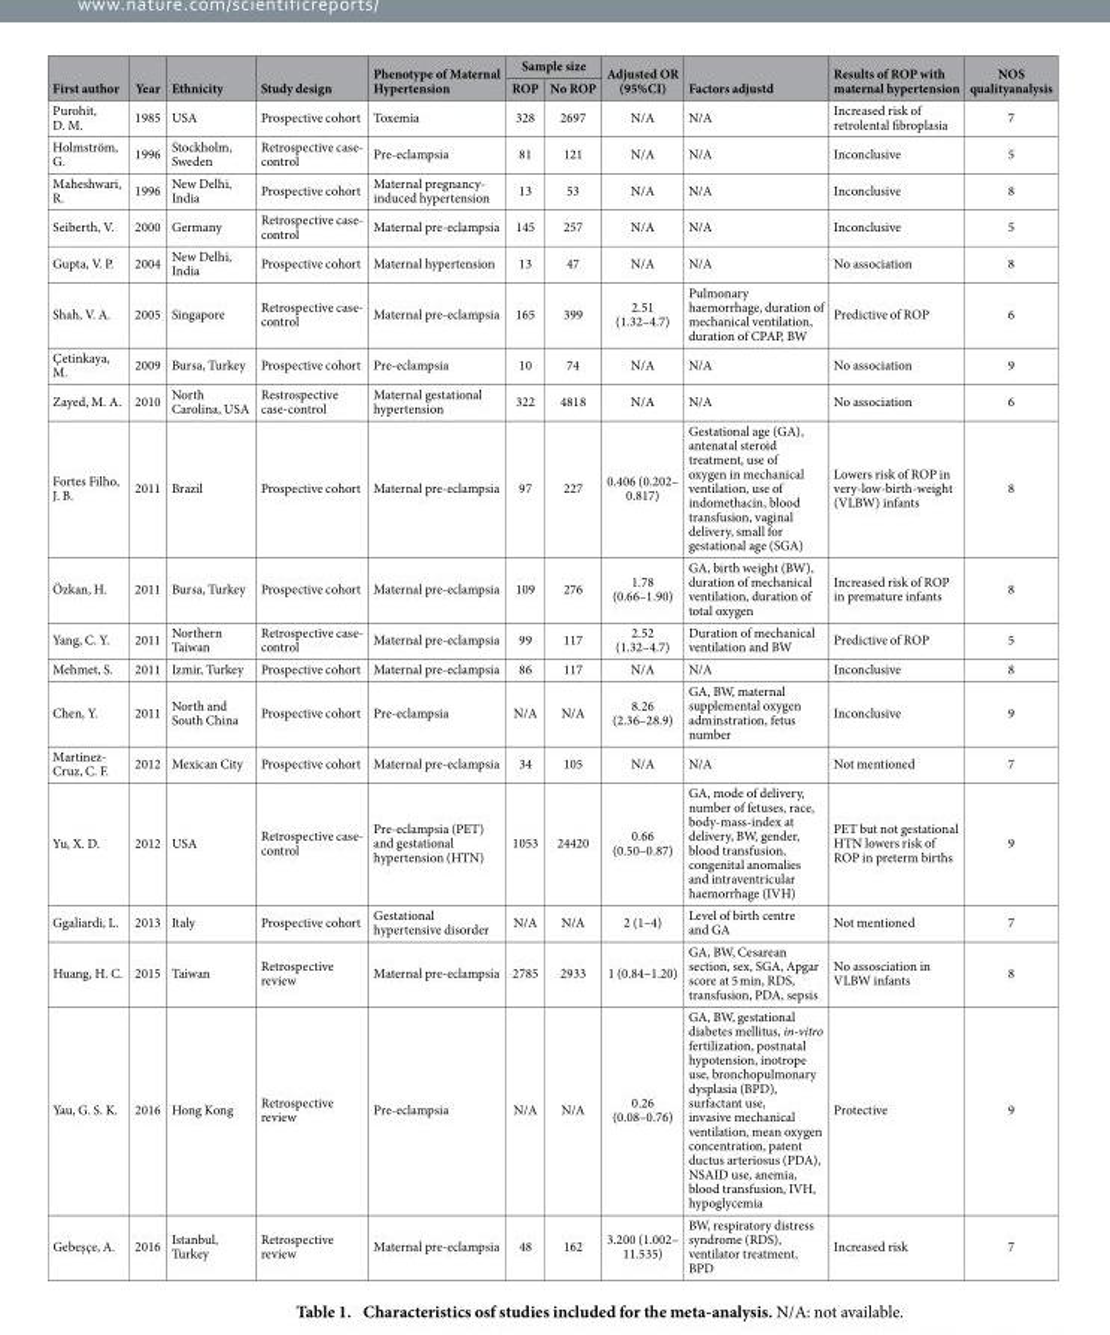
<table><thead><tr><td rowspan="2">First author</td><td rowspan="2">Year</td><td rowspan="2">Ethnicity</td><td rowspan="2">Study design</td><td rowspan="2">Phenotype of Maternal Hypertension</td><td colspan="2">Sample size</td><td rowspan="2">Adjusted OR (95%CI)</td><td rowspan="2">Factors adjustd</td><td rowspan="2">Results of ROP with maternal hypertension</td><td rowspan="2">NOS qualityanalysis</td></tr><tr><td>ROP</td><td>No ROP</td></tr></thead><tbody><tr><td>Purohit, D. M.</td><td>1985</td><td>USA</td><td>Prospective cohort</td><td>Toxemia</td><td>328</td><td>2697</td><td>N/A</td><td>N/A</td><td>Increased risk of retrolental fibroplasia</td><td>7</td></tr><tr><td>Holmström, G.</td><td>1996</td><td>Stockholm, Sweden</td><td>Retrospective case- control</td><td>Pre-eclampsia</td><td>81</td><td>121</td><td>N/A</td><td>N/A</td><td>Inconclusive</td><td>5</td></tr><tr><td>Maheshwari, R.</td><td>1996</td><td>New Delhi, India</td><td>Prospective cohort</td><td>Maternal pregnancy- induced hypertension</td><td>13</td><td>53</td><td>N/A</td><td>N/A</td><td>Inconclusive</td><td>8</td></tr><tr><td>Seiberth, V.</td><td>2000</td><td>Germany</td><td>Retrospective case- control</td><td>Maternal pre-eclampsia</td><td>145</td><td>257</td><td>N/A</td><td>N/A</td><td>Inconclusive</td><td>5</td></tr><tr><td>Gupta, V. P.</td><td>2004</td><td>New Delhi, India</td><td>Prospective cohort</td><td>Maternal hypertension</td><td>13</td><td>47</td><td>N/A</td><td>N/A</td><td>No association</td><td>8</td></tr><tr><td>Shah, V. A.</td><td>2005</td><td>Singapore</td><td>Retrospective case- control</td><td>Maternal pre-eclampsia</td><td>165</td><td>399</td><td>2.51 (1.32–4.7)</td><td>Pulmonary haemorrhage, duration of mechanical ventilation, duration of CPAP, BW</td><td>Predictive of ROP</td><td>6</td></tr><tr><td>Çetinkaya, M.</td><td>2009</td><td>Bursa, Turkey</td><td>Prospective cohort</td><td>Pre-eclampsia</td><td>10</td><td>74</td><td>N/A</td><td>N/A</td><td>No association</td><td>9</td></tr><tr><td>Zayed, M. A.</td><td>2010</td><td>North Carolina, USA</td><td>Restrospective case-control</td><td>Maternal gestational hypertension</td><td>322</td><td>4818</td><td>N/A</td><td>N/A</td><td>No association</td><td>6</td></tr><tr><td>Fortes Filho, J. B.</td><td>2011</td><td>Brazil</td><td>Prospective cohort</td><td>Maternal pre-eclampsia</td><td>97</td><td>227</td><td>0.406 (0.202– 0.817)</td><td>Gestational age (GA), antenatal steroid treatment, use of oxygen in mechanical ventilation, use of indomethacin, blood transfusion, vaginal delivery, small for gestational age (SGA)</td><td>Lowers risk of ROP in very-low-birth-weight (VLBW) infants</td><td>8</td></tr><tr><td>Özkan, H.</td><td>2011</td><td>Bursa, Turkey</td><td>Prospective cohort</td><td>Maternal pre-eclampsia</td><td>109</td><td>276</td><td>1.78 (0.66–1.90)</td><td>GA, birth weight (BW), duration of mechanical ventilation, duration of total oxygen</td><td>Increased risk of ROP in premature infants</td><td>8</td></tr><tr><td>Yang, C. Y.</td><td>2011</td><td>Northern Taiwan</td><td>Retrospective case- control</td><td>Maternal pre-eclampsia</td><td>99</td><td>117</td><td>2.52 (1.32–4.7)</td><td>Duration of mechanical ventilation and BW</td><td>Predictive of ROP</td><td>5</td></tr><tr><td>Mehmet, S.</td><td>2011</td><td>Izmir, Turkey</td><td>Prospective cohort</td><td>Maternal pre-eclampsia</td><td>86</td><td>117</td><td>N/A</td><td>N/A</td><td>Inconclusive</td><td>8</td></tr><tr><td>Chen, Y.</td><td>2011</td><td>North and South China</td><td>Prospective cohort</td><td>Pre-eclampsia</td><td>N/A</td><td>N/A</td><td>8.26 (2.36–28.9)</td><td>GA, BW, maternal supplemental oxygen adminstration, fetus number</td><td>Inconclusive</td><td>9</td></tr><tr><td>Martinez- Cruz, C. F.</td><td>2012</td><td>Mexican City</td><td>Prospective cohort</td><td>Maternal pre-eclampsia</td><td>34</td><td>105</td><td>N/A</td><td>N/A</td><td>Not mentioned</td><td>7</td></tr><tr><td>Yu, X. D.</td><td>2012</td><td>USA</td><td>Retrospective case- control</td><td>Pre-eclampsia (PET) and gestational hypertension (HTN)</td><td>1053</td><td>24420</td><td>0.66 (0.50–0.87)</td><td>GA, mode of delivery, number of fetuses, race, body-mass-index at delivery, BW, gender, blood transfusion, congenital anomalies and intraventricular haemorrhage (IVH)</td><td>PET but not gestational HTN lowers risk of ROP in preterm births</td><td>9</td></tr><tr><td>Ggaliardi, L.</td><td>2013</td><td>Italy</td><td>Prospective cohort</td><td>Gestational hypertensive disorder</td><td>N/A</td><td>N/A</td><td>2 (1–4)</td><td>Level of birth centre and GA</td><td>Not mentioned</td><td>7</td></tr><tr><td>Huang, H. C.</td><td>2015</td><td>Taiwan</td><td>Retrospective review</td><td>Maternal pre-eclampsia</td><td>2785</td><td>2933</td><td>1 (0.84–1.20)</td><td>GA, BW, Cesarean section, sex, SGA, Apgar score at 5 min, RDS, transfusion, PDA, sepsis</td><td>No assosciation in VLBW infants</td><td>8</td></tr><tr><td>Yau, G. S. K.</td><td>2016</td><td>Hong Kong</td><td>Retrospective review</td><td>Pre-eclampsia</td><td>N/A</td><td>N/A</td><td>0.26 (0.08–0.76)</td><td>GA, BW, gestational diabetes mellitus, in-vitro fertilization, postnatal hypotension, inotrope use, bronchopulmonary dysplasia (BPD), surfactant use, invasive mechanical ventilation, mean oxygen concentration, patent ductus arteriosus (PDA), NSAID use, anemia, blood transfusion, IVH, hypoglycemia</td><td>Protective</td><td>9</td></tr><tr><td>Gebeşçe, A.</td><td>2016</td><td>Istanbul, Turkey</td><td>Retrospective review</td><td>Maternal pre-eclampsia</td><td>48</td><td>162</td><td>3.200 (1.002– 11.535)</td><td>BW, respiratory distress syndrome (RDS), ventilator treatment, BPD</td><td>Increased risk</td><td>7</td></tr></tbody></table>